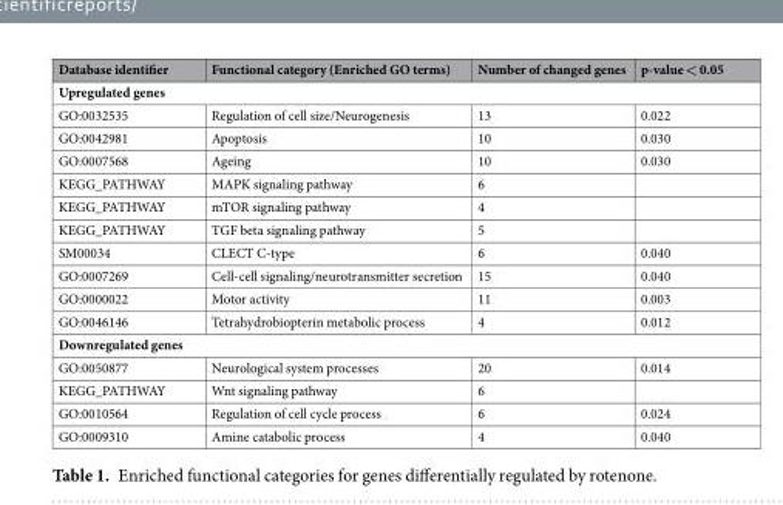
<table><thead><tr><td>Database identifier</td><td>Functional category (Enriched GO terms)</td><td>Number of changed genes</td><td>p-value &lt; 0.05</td></tr></thead><tbody><tr><td colspan="4">Upregulated genes</td></tr><tr><td>GO:0032535</td><td>Regulation of cell size/Neurogenesis</td><td>13</td><td>0.022</td></tr><tr><td>GO:0042981</td><td>Apoptosis</td><td>10</td><td>0.030</td></tr><tr><td>GO:0007568</td><td>Ageing</td><td>10</td><td>0.030</td></tr><tr><td>KEGG_PATHWAY</td><td>MAPK signaling pathway</td><td>6</td><td></td></tr><tr><td>KEGG_PATHWAY</td><td>mTOR signaling pathway</td><td>4</td><td></td></tr><tr><td>KEGG_PATHWAY</td><td>TGF beta signaling pathway</td><td>5</td><td></td></tr><tr><td>SM00034</td><td>CLECT C-type</td><td>6</td><td>0.040</td></tr><tr><td>GO:0007269</td><td>Cell-cell signaling/neurotransmitter secretion</td><td>15</td><td>0.040</td></tr><tr><td>GO:0000022</td><td>Motor activity</td><td>11</td><td>0.003</td></tr><tr><td>GO:0046146</td><td>Tetrahydrobiopterin metabolic process</td><td>4</td><td>0.012</td></tr><tr><td colspan="4">Downregulated genes</td></tr><tr><td>GO:0050877</td><td>Neurological system processes</td><td>20</td><td>0.014</td></tr><tr><td>KEGG_PATHWAY</td><td>Wnt signaling pathway</td><td>6</td><td></td></tr><tr><td>GO:0010564</td><td>Regulation of cell cycle process</td><td>6</td><td>0.024</td></tr><tr><td>GO:0009310</td><td>Amine catabolic process</td><td>4</td><td>0.040</td></tr></tbody></table>